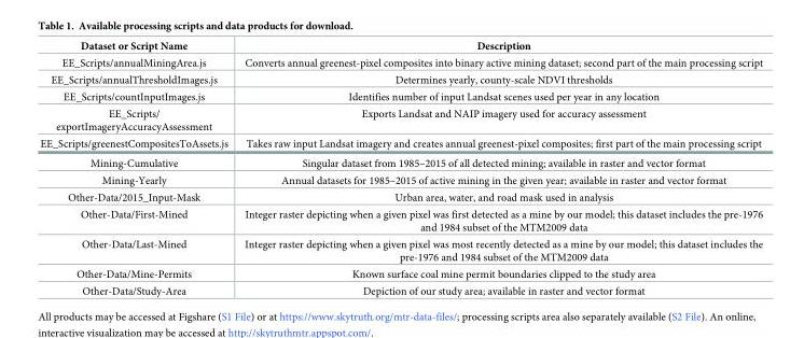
<table><thead><tr><td>Dataset or Script Name</td><td>Description</td></tr></thead><tbody><tr><td>EE_Scripts/annualMiningArea.js</td><td>Converts annual greenest-pixel composites into binary active mining dataset; second part of the main processing script</td></tr><tr><td>EE_Scripts/annualThresholdImages.js</td><td>Determines yearly, county-scale NDVI thresholds</td></tr><tr><td>EE_Scripts/countInputImages.js</td><td>Identifies number of input Landsat scenes used per year in any location</td></tr><tr><td>EE_Scripts/ exportImageryAccuracyAssessment</td><td>Exports Landsat and NAIP imagery used for accuracy assessment</td></tr><tr><td>EE_Scripts/greenestCompositesToAssets.js</td><td>Takes raw input Landsat imagery and creates annual greenest-pixel composites; first part of the main processing script</td></tr><tr><td>Mining-Cumulative</td><td>Singular dataset from 1985–2015 of all detected mining; available in raster and vector format</td></tr><tr><td>Mining-Yearly</td><td>Annual datasets for 1985–2015 of active mining in the given year; available in raster and vector format</td></tr><tr><td>Other-Data/2015_Input-Mask</td><td>Urban area, water, and road mask used in analysis</td></tr><tr><td>Other-Data/First-Mined</td><td>Integer raster depicting when a given pixel was first detected as a mine by our model; this dataset includes the pre-1976 and 1984 subset of the MTM2009 data</td></tr><tr><td>Other-Data/Last-Mined</td><td>Integer raster depicting when a given pixel was most recently detected as a mine by our model; this dataset includes the pre-1976 and 1984 subset of the MTM2009 data</td></tr><tr><td>Other-Data/Mine-Permits</td><td>Known surface coal mine permit boundaries clipped to the study area</td></tr><tr><td>Other-Data/Study-Area</td><td>Depiction of our study area; available in raster and vector format</td></tr></tbody></table>